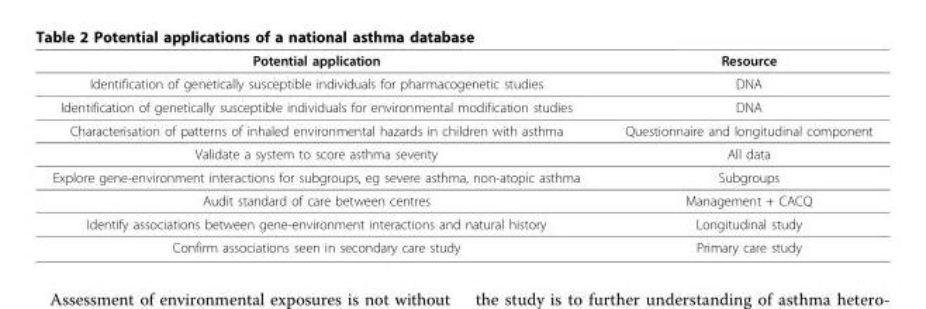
<table><thead><tr><td>Potential application</td><td>Resource</td></tr></thead><tbody><tr><td>Identification of genetically susceptible individuals for pharmacogenetic studies</td><td>DNA</td></tr><tr><td>Identification of genetically susceptible individuals for environmental modification studies</td><td>DNA</td></tr><tr><td>Characterisation of patterns of inhaled environmental hazards in children with asthma</td><td>Questionnaire and longitudinal component</td></tr><tr><td>Validate a system to score asthma severity</td><td>All data</td></tr><tr><td>Explore gene-environment interactions for subgroups, eg severe asthma, non-atopic asthma</td><td>Subgroups</td></tr><tr><td>Audit standard of care between centres</td><td>Management + CACQ</td></tr><tr><td>Identify associations between gene-environment interactions and natural history</td><td>Longitudinal study</td></tr><tr><td>Confirm associations seen in secondary care study</td><td>Primary care study</td></tr></tbody></table>